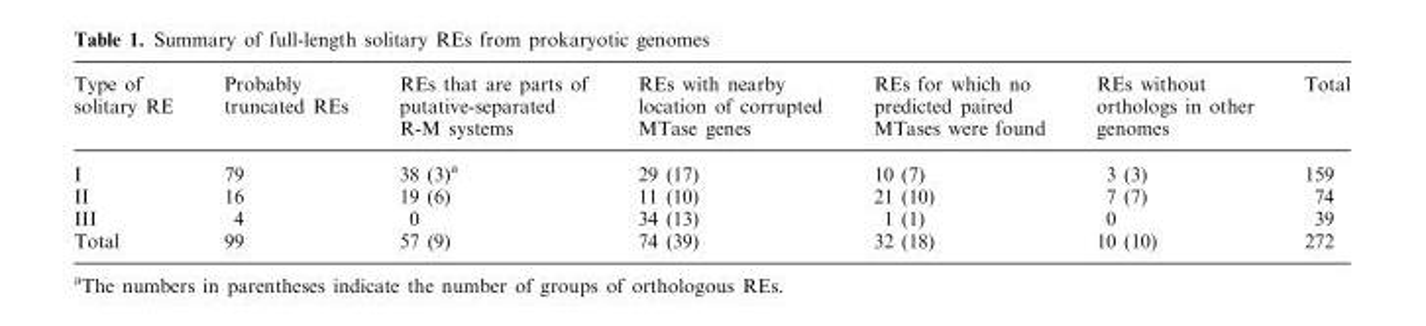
<table><thead><tr><td>Type of solitary RE</td><td>Probably truncated REs</td><td>REs that are parts of putative-separated R-M systems</td><td>REs with nearby location of corrupted MTase genes</td><td>REs for which no predicted paired MTases were found</td><td>REs without orthologs in other genomes</td><td>Total</td></tr></thead><tbody><tr><td>I</td><td>79</td><td>38 (3)<sup>a</sup></td><td>29 (17)</td><td>10 (7)</td><td>3 (3)</td><td>159</td></tr><tr><td>II</td><td>16</td><td>19 (6)</td><td>11 (10)</td><td>21 (10)</td><td>7 (7)</td><td>74</td></tr><tr><td>III</td><td>4</td><td>0</td><td>34 (13)</td><td>1 (1)</td><td>0</td><td>39</td></tr><tr><td>Total</td><td>99</td><td>57 (9)</td><td>74 (39)</td><td>32 (18)</td><td>10 (10)</td><td>272</td></tr></tbody></table>